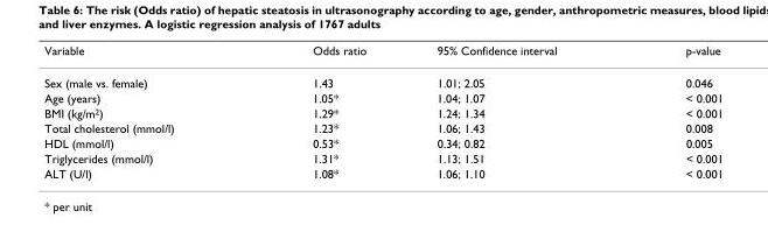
<table><thead><tr><td>Variable</td><td>Odds ratio</td><td>95% Confidence interval</td><td>p-value</td></tr></thead><tbody><tr><td>Sex (male vs. female)</td><td>1.43</td><td>1.01; 2.05</td><td>0.046</td></tr><tr><td>Age (years)</td><td>1.05*</td><td>1.04; 1.07</td><td>&lt; 0.001</td></tr><tr><td>BMI (kg/m2)</td><td>1.29*</td><td>1.24; 1.34</td><td>&lt; 0.001</td></tr><tr><td>Total cholesterol (mmol/l)</td><td>1.23*</td><td>1.06; 1.43</td><td>0.008</td></tr><tr><td>HDL (mmol/l)</td><td>0.53*</td><td>0.34; 0.82</td><td>0.005</td></tr><tr><td>Triglycerides (mmol/l)</td><td>1.31*</td><td>1.13; 1.51</td><td>&lt; 0.001</td></tr><tr><td>ALT (U/l)</td><td>1.08*</td><td>1.06; 1.10</td><td>&lt; 0.001</td></tr></tbody></table>